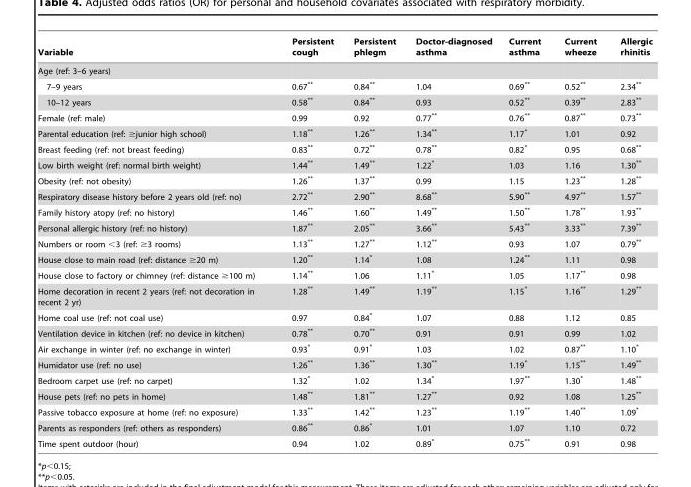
<table><thead><tr><td>Variable</td><td>Persistent cough</td><td>Persistent phlegm</td><td>Doctor-diagnosed asthma</td><td>Current asthma</td><td>Current wheeze</td><td>Allergic rhinitis</td></tr></thead><tbody><tr><td colspan="7">Age (ref: 3–6 years)</td></tr><tr><td>7–9 years</td><td>0.67**</td><td>0.84**</td><td>1.04</td><td>0.69**</td><td>0.52**</td><td>2.34**</td></tr><tr><td>10–12 years</td><td>0.58**</td><td>0.84**</td><td>0.93</td><td>0.52**</td><td>0.39**</td><td>2.83**</td></tr><tr><td>Female (ref: male)</td><td>0.99</td><td>0.92</td><td>0.77**</td><td>0.76**</td><td>0.87**</td><td>0.73**</td></tr><tr><td>Parental education (ref: ≥junior high school)</td><td>1.18**</td><td>1.26**</td><td>1.34**</td><td>1.17*</td><td>1.01</td><td>0.92</td></tr><tr><td>Breast feeding (ref: not breast feeding)</td><td>0.83**</td><td>0.72**</td><td>0.78**</td><td>0.82*</td><td>0.95</td><td>0.68**</td></tr><tr><td>Low birth weight (ref: normal birth weight)</td><td>1.44**</td><td>1.49**</td><td>1.22*</td><td>1.03</td><td>1.16</td><td>1.30**</td></tr><tr><td>Obesity (ref: not obesity)</td><td>1.26**</td><td>1.37**</td><td>0.99</td><td>1.15</td><td>1.23**</td><td>1.28**</td></tr><tr><td>Respiratory disease history before 2 years old (ref: no)</td><td>2.72**</td><td>2.90**</td><td>8.68**</td><td>5.90**</td><td>4.97**</td><td>1.57**</td></tr><tr><td>Family history atopy (ref: no history)</td><td>1.46**</td><td>1.60**</td><td>1.49**</td><td>1.50**</td><td>1.78**</td><td>1.93**</td></tr><tr><td>Personal allergic history (ref: no history)</td><td>1.87**</td><td>2.05**</td><td>3.66**</td><td>5.43**</td><td>3.33**</td><td>7.39**</td></tr><tr><td>Numbers or room &lt;3 (ref: ≥3 rooms)</td><td>1.13**</td><td>1.27**</td><td>1.12**</td><td>0.93</td><td>1.07</td><td>0.79**</td></tr><tr><td>House close to main road (ref: distance ≥20 m)</td><td>1.20**</td><td>1.14*</td><td>1.08</td><td>1.24**</td><td>1.11</td><td>0.98</td></tr><tr><td>House close to factory or chimney (ref: distance ≥100 m)</td><td>1.14**</td><td>1.06</td><td>1.11*</td><td>1.05</td><td>1.17**</td><td>0.98</td></tr><tr><td>Home decoration in recent 2 years (ref: not decoration in recent 2 yr)</td><td>1.28**</td><td>1.49**</td><td>1.19**</td><td>1.15*</td><td>1.16**</td><td>1.29**</td></tr><tr><td>Home coal use (ref: not coal use)</td><td>0.97</td><td>0.84*</td><td>1.07</td><td>0.88</td><td>1.12</td><td>0.85</td></tr><tr><td>Ventilation device in kitchen (ref: no device in kitchen)</td><td>0.78**</td><td>0.70**</td><td>0.91</td><td>0.91</td><td>0.99</td><td>1.02</td></tr><tr><td>Air exchange in winter (ref: no exchange in winter)</td><td>0.93*</td><td>0.91*</td><td>1.03</td><td>1.02</td><td>0.87**</td><td>1.10*</td></tr><tr><td>Humidator use (ref: no use)</td><td>1.26**</td><td>1.36**</td><td>1.30**</td><td>1.19*</td><td>1.15**</td><td>1.49**</td></tr><tr><td>Bedroom carpet use (ref: no carpet)</td><td>1.32*</td><td>1.02</td><td>1.34*</td><td>1.97**</td><td>1.30*</td><td>1.48**</td></tr><tr><td>House pets (ref: no pets in home)</td><td>1.48**</td><td>1.81**</td><td>1.27**</td><td>0.92</td><td>1.08</td><td>1.25**</td></tr><tr><td>Passive tobacco exposure at home (ref: no exposure)</td><td>1.33**</td><td>1.42**</td><td>1.23**</td><td>1.19**</td><td>1.40**</td><td>1.09*</td></tr><tr><td>Parents as responders (ref: others as responders)</td><td>0.86**</td><td>0.86*</td><td>1.01</td><td>1.07</td><td>1.10</td><td>0.72</td></tr><tr><td>Time spent outdoor (hour)</td><td>0.94</td><td>1.02</td><td>0.89*</td><td>0.75**</td><td>0.91</td><td>0.98</td></tr></tbody></table>